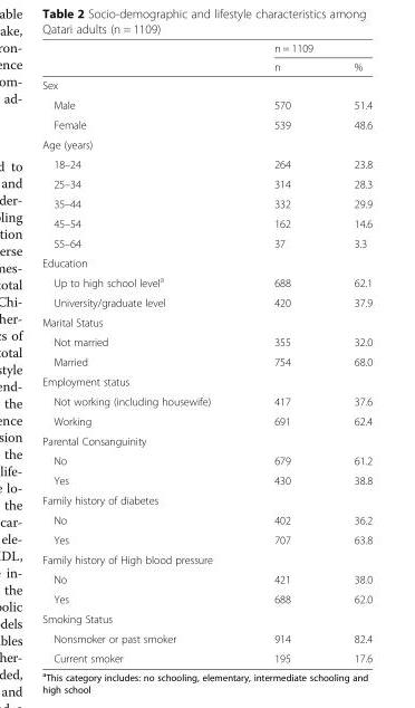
<table><thead><tr><td rowspan="2"></td><td colspan="2">n = 1109</td></tr><tr><td>n</td><td>%</td></tr></thead><tbody><tr><td colspan="3">Sex</td></tr><tr><td>Male</td><td>570</td><td>51.4</td></tr><tr><td>Female</td><td>539</td><td>48.6</td></tr><tr><td colspan="3">Age (years)</td></tr><tr><td>18–24</td><td>264</td><td>23.8</td></tr><tr><td>25–34</td><td>314</td><td>28.3</td></tr><tr><td>35–44</td><td>332</td><td>29.9</td></tr><tr><td>45–54</td><td>162</td><td>14.6</td></tr><tr><td>55–64</td><td>37</td><td>3.3</td></tr><tr><td colspan="3">Education</td></tr><tr><td>Up to high school level<sup>a</sup></td><td>688</td><td>62.1</td></tr><tr><td>University/graduate level</td><td>420</td><td>37.9</td></tr><tr><td colspan="3">Marital Status</td></tr><tr><td>Not married</td><td>355</td><td>32.0</td></tr><tr><td>Married</td><td>754</td><td>68.0</td></tr><tr><td colspan="3">Employment status</td></tr><tr><td>Not working (including housewife)</td><td>417</td><td>37.6</td></tr><tr><td>Working</td><td>691</td><td>62.4</td></tr><tr><td colspan="3">Parental Consanguinity</td></tr><tr><td>No</td><td>679</td><td>61.2</td></tr><tr><td>Yes</td><td>430</td><td>38.8</td></tr><tr><td colspan="3">Family history of diabetes</td></tr><tr><td>No</td><td>402</td><td>36.2</td></tr><tr><td>Yes</td><td>707</td><td>63.8</td></tr><tr><td colspan="3">Family history of High blood pressure</td></tr><tr><td>No</td><td>421</td><td>38.0</td></tr><tr><td>Yes</td><td>688</td><td>62.0</td></tr><tr><td colspan="3">Smoking Status</td></tr><tr><td>Nonsmoker or past smoker</td><td>914</td><td>82.4</td></tr><tr><td>Current smoker</td><td>195</td><td>17.6</td></tr></tbody></table>